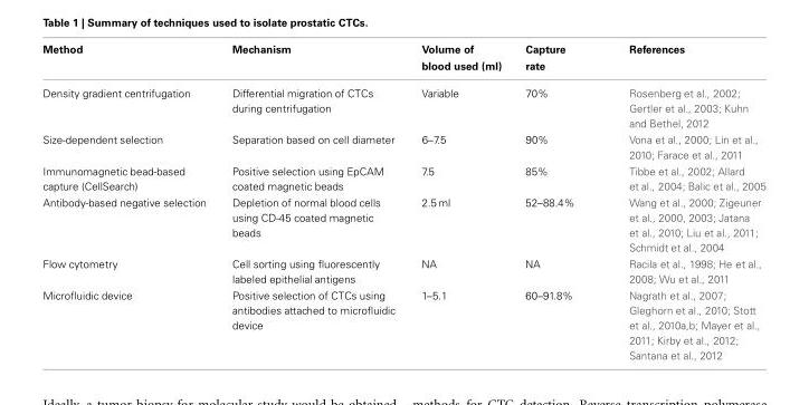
<table><thead><tr><td>Method</td><td>Mechanism</td><td>Volume of blood used (ml)</td><td>Capture rate</td><td>References</td></tr></thead><tbody><tr><td>Density gradient centrifugation</td><td>Differential migration of CTCs during centrifugation</td><td>Variable</td><td>70%</td><td>Rosenberg et al., 2002; Gertler et al., 2003; Kuhn and Bethel, 2012</td></tr><tr><td>Size-dependent selection</td><td>Separation based on cell diameter</td><td>6–7.5</td><td>90%</td><td>Vona et al., 2000; Lin et al., 2010; Farace et al., 2011</td></tr><tr><td>Immunomagnetic bead-based capture (CellSearch)</td><td>Positive selection using EpCAM coated magnetic beads</td><td>7.5</td><td>85%</td><td>Tibbe et al., 2002; Allard et al., 2004; Balic et al., 2005</td></tr><tr><td>Antibody-based negative selection</td><td>Depletion of normal blood cells using CD-45 coated magnetic beads</td><td>2.5 ml</td><td>52–88.4%</td><td>Wang et al., 2000; Zigeuner et al., 2000, 2003; Jatana et al., 2010; Liu et al., 2011; Schmidt et al., 2004</td></tr><tr><td>Flow cytometry</td><td>Cell sorting using fluorescently labeled epithelial antigens</td><td>NA</td><td>NA</td><td>Racila et al., 1998; He et al., 2008; Wu et al., 2011</td></tr><tr><td>Microfluidic device</td><td>Positive selection of CTCs using antibodies attached to microfluidic device</td><td>1–5.1</td><td>60–91.8%</td><td>Nagrath et al., 2007; Gleghorn et al., 2010; Stott et al., 2010a,b; Mayer et al., 2011; Kirby et al., 2012; Santana et al., 2012</td></tr></tbody></table>